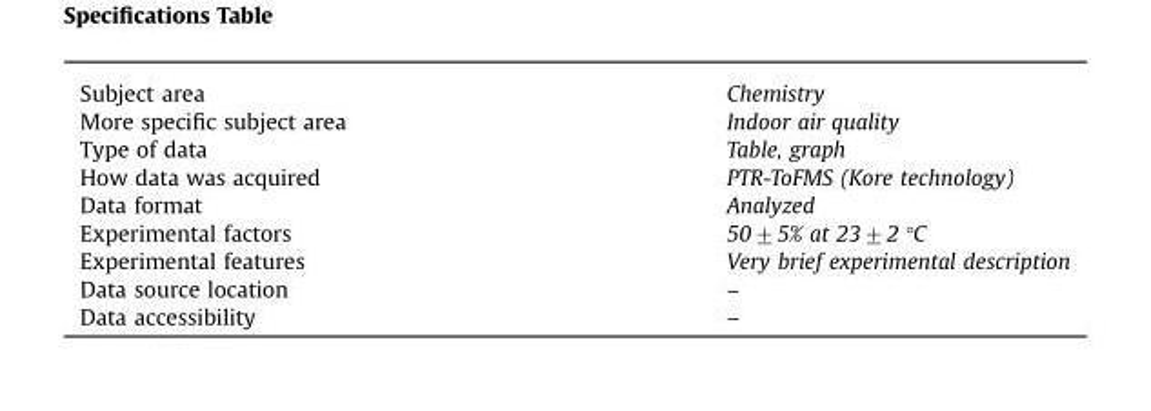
<table><tbody><tr><td>Subject area</td><td>Chemistry</td></tr><tr><td>More specific subject area</td><td>Indoor air quality</td></tr><tr><td>Type of data</td><td>Table, graph</td></tr><tr><td>How data was acquired</td><td>PTR-ToFMS (Kore technology)</td></tr><tr><td>Data format</td><td>Analyzed</td></tr><tr><td>Experimental factors</td><td>50±5% at 23±2 °C</td></tr><tr><td>Experimental features</td><td>Very brief experimental description</td></tr><tr><td>Data source location</td><td>–</td></tr><tr><td>Data accessibility</td><td>–</td></tr></tbody></table>